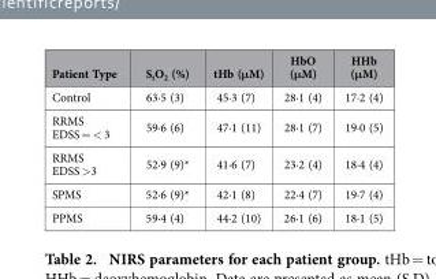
<table><thead><tr><td>Patient Type</td><td>S<sub>t</sub>O<sub>2</sub> (%)</td><td>tHb (μM)</td><td>HbO (μM)</td><td>HHb (μM)</td></tr></thead><tbody><tr><td>Control</td><td>63·5 (3)</td><td>45·3 (7)</td><td>28·1 (4)</td><td>17·2 (4)</td></tr><tr><td>RRMS EDSS = &lt; 3</td><td>59·6 (6)</td><td>47·1 (11)</td><td>28·1 (7)</td><td>19·0 (5)</td></tr><tr><td>RRMS EDSS &gt;3</td><td>52·9 (9)*</td><td>41·6 (7)</td><td>23·2 (4)</td><td>18·4 (4)</td></tr><tr><td>SPMS</td><td>52·6 (9)*</td><td>42·1 (8)</td><td>22·4 (7)</td><td>19·7 (4)</td></tr><tr><td>PPMS</td><td>59·4 (4)</td><td>44·2 (10)</td><td>26·1 (6)</td><td>18·1 (5)</td></tr></tbody></table>